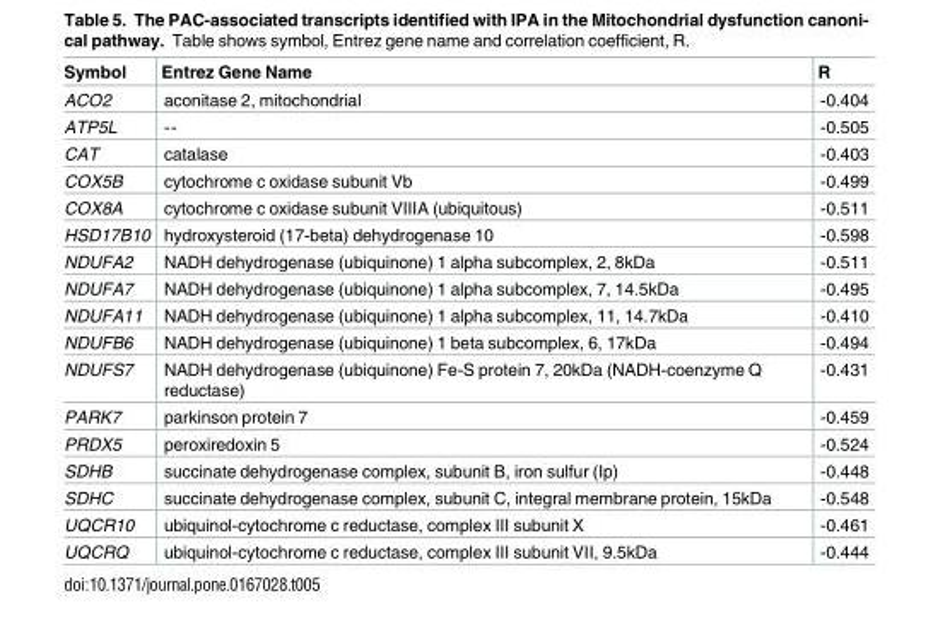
<table><thead><tr><td>Symbol</td><td>Entrez Gene Name</td><td>R</td></tr></thead><tbody><tr><td>ACO2</td><td>aconitase 2, mitochondrial</td><td>-0.404</td></tr><tr><td>ATP5L</td><td>--</td><td>-0.505</td></tr><tr><td>CAT</td><td>catalase</td><td>-0.403</td></tr><tr><td>COX5B</td><td>cytochrome c oxidase subunit Vb</td><td>-0.499</td></tr><tr><td>COX8A</td><td>cytochrome c oxidase subunit VIIIA (ubiquitous)</td><td>-0.511</td></tr><tr><td>HSD17B10</td><td>hydroxysteroid (17-beta) dehydrogenase 10</td><td>-0.598</td></tr><tr><td>NDUFA2</td><td>NADH dehydrogenase (ubiquinone) 1 alpha subcomplex, 2, 8kDa</td><td>-0.511</td></tr><tr><td>NDUFA7</td><td>NADH dehydrogenase (ubiquinone) 1 alpha subcomplex, 7, 14.5kDa</td><td>-0.495</td></tr><tr><td>NDUFA11</td><td>NADH dehydrogenase (ubiquinone) 1 alpha subcomplex, 11, 14.7kDa</td><td>-0.410</td></tr><tr><td>NDUFB6</td><td>NADH dehydrogenase (ubiquinone) 1 beta subcomplex, 6, 17kDa</td><td>-0.494</td></tr><tr><td>NDUFS7</td><td>NADH dehydrogenase (ubiquinone) Fe-S protein 7, 20kDa (NADH-coenzyme Q reductase)</td><td>-0.431</td></tr><tr><td>PARK7</td><td>parkinson protein 7</td><td>-0.459</td></tr><tr><td>PRDX5</td><td>peroxiredoxin 5</td><td>-0.524</td></tr><tr><td>SDHB</td><td>succinate dehydrogenase complex, subunit B, iron sulfur (Ip)</td><td>-0.448</td></tr><tr><td>SDHC</td><td>succinate dehydrogenase complex, subunit C, integral membrane protein, 15kDa</td><td>-0.548</td></tr><tr><td>UQCR10</td><td>ubiquinol-cytochrome c reductase, complex III subunit X</td><td>-0.461</td></tr><tr><td>UQCRQ</td><td>ubiquinol-cytochrome c reductase, complex III subunit VII, 9.5kDa</td><td>-0.444</td></tr></tbody></table>